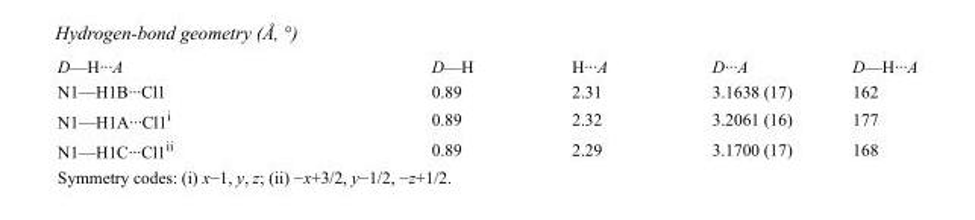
<table><tbody><tr><td>D—H···A</td><td>D—H</td><td>H···A</td><td>D···A</td><td>D—H···A</td></tr><tr><td>N1—H1B···Cl1</td><td>0.89</td><td>2.31</td><td>3.1638 (17)</td><td>162</td></tr><tr><td>N1—H1A···Cl1<sup>i</sup></td><td>0.89</td><td>2.32</td><td>3.2061 (16)</td><td>177</td></tr><tr><td>N1—H1C···Cl1<sup>ii</sup></td><td>0.89</td><td>2.29</td><td>3.1700 (17)</td><td>168</td></tr></tbody></table>